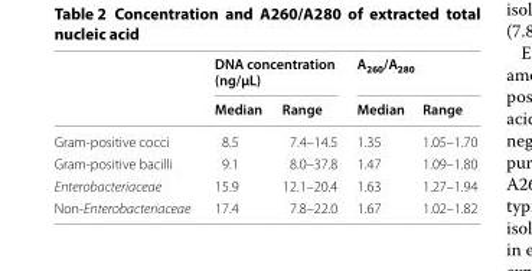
<table><thead><tr><td rowspan="2"></td><td colspan="2">DNA concentration (ng/µL)</td><td colspan="2">A<sub>260</sub>/A<sub>280</sub></td></tr><tr><td>Median</td><td>Range</td><td>Median</td><td>Range</td></tr></thead><tbody><tr><td>Gram-positive cocci</td><td>8.5</td><td>7.4–14.5</td><td>1.35</td><td>1.05–1.70</td></tr><tr><td>Gram-positive bacilli</td><td>9.1</td><td>8.0–37.8</td><td>1.47</td><td>1.09–1.80</td></tr><tr><td>Enterobacteriaceae</td><td>15.9</td><td>12.1–20.4</td><td>1.63</td><td>1.27–1.94</td></tr><tr><td>Non-Enterobacteriaceae</td><td>17.4</td><td>7.8–22.0</td><td>1.67</td><td>1.02–1.82</td></tr></tbody></table>